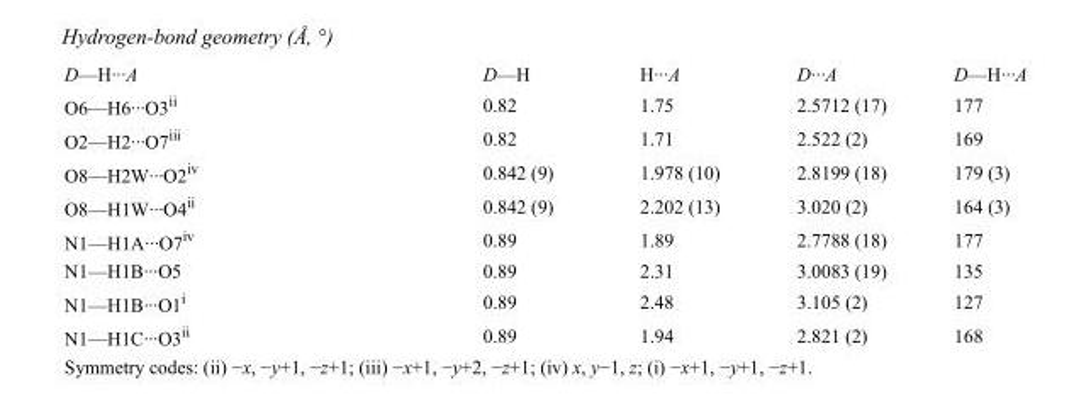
<table><tbody><tr><td>D—H···A</td><td>D—H</td><td>H···A</td><td>D···A</td><td>D—H···A</td></tr><tr><td>O6—H6···O3<sup>ii</sup></td><td>0.82</td><td>1.75</td><td>2.5712 (17)</td><td>177</td></tr><tr><td>O2—H2···O7<sup>iii</sup></td><td>0.82</td><td>1.71</td><td>2.522 (2)</td><td>169</td></tr><tr><td>O8—H2W···O2<sup>iv</sup></td><td>0.842 (9)</td><td>1.978 (10)</td><td>2.8199 (18)</td><td>179 (3)</td></tr><tr><td>O8—H1W···O4<sup>ii</sup></td><td>0.842 (9)</td><td>2.202 (13)</td><td>3.020 (2)</td><td>164 (3)</td></tr><tr><td>N1—H1A···O7<sup>iv</sup></td><td>0.89</td><td>1.89</td><td>2.7788 (18)</td><td>177</td></tr><tr><td>N1—H1B···O5</td><td>0.89</td><td>2.31</td><td>3.0083 (19)</td><td>135</td></tr><tr><td>N1—H1B···O1<sup>i</sup></td><td>0.89</td><td>2.48</td><td>3.105 (2)</td><td>127</td></tr><tr><td>N1—H1C···O3<sup>ii</sup></td><td>0.89</td><td>1.94</td><td>2.821 (2)</td><td>168</td></tr></tbody></table>